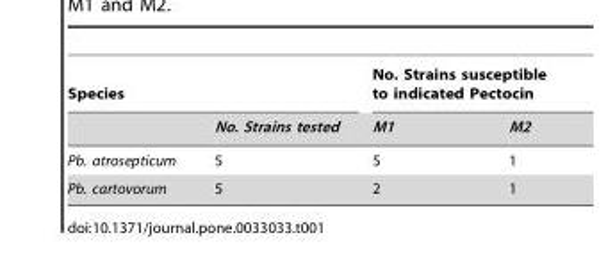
<table><thead><tr><td colspan="2">Species</td><td colspan="2">No. Strains susceptible to indicated Pectocin</td></tr><tr><td></td><td>No. Strains tested</td><td>M1</td><td>M2</td></tr></thead><tbody><tr><td>Pb. atrosepticum</td><td>5</td><td>5</td><td>1</td></tr><tr><td>Pb. cartovorum</td><td>5</td><td>2</td><td>1</td></tr></tbody></table>